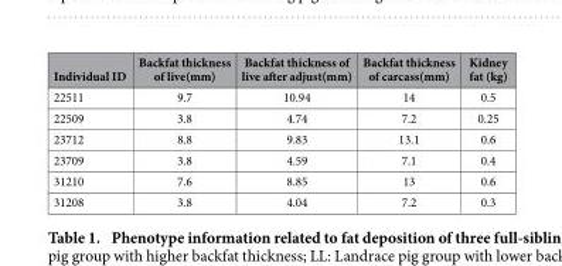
<table><thead><tr><td>Individual ID</td><td>Backfat thickness of live(mm)</td><td>Backfat thickness of live after adjust(mm)</td><td>Backfat thickness of carcass(mm)</td><td>Kidney fat (kg)</td></tr></thead><tbody><tr><td>22511</td><td>9.7</td><td>10.94</td><td>14</td><td>0.5</td></tr><tr><td>22509</td><td>3.8</td><td>4.74</td><td>7.2</td><td>0.25</td></tr><tr><td>23712</td><td>8.8</td><td>9.83</td><td>13.1</td><td>0.6</td></tr><tr><td>23709</td><td>3.8</td><td>4.59</td><td>7.1</td><td>0.4</td></tr><tr><td>31210</td><td>7.6</td><td>8.85</td><td>13</td><td>0.6</td></tr><tr><td>31208</td><td>3.8</td><td>4.04</td><td>7.2</td><td>0.3</td></tr></tbody></table>